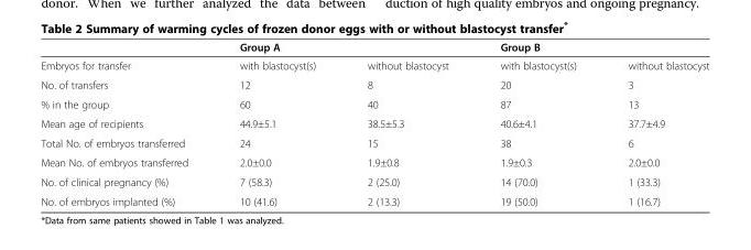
<table><thead><tr><td rowspan="2">Embryos for transfer</td><td colspan="2">Group A</td><td colspan="2">Group B</td></tr><tr><td>with blastocyst(s)</td><td>without blastocyst</td><td>with blastocyst(s)</td><td>without blastocyst</td></tr></thead><tbody><tr><td>No. of transfers</td><td>12</td><td>8</td><td>20</td><td>3</td></tr><tr><td>% in the group</td><td>60</td><td>40</td><td>87</td><td>13</td></tr><tr><td>Mean age of recipients</td><td>44.9±5.1</td><td>38.5±5.3</td><td>40.6±4.1</td><td>37.7±4.9</td></tr><tr><td>Total No. of embryos transferred</td><td>24</td><td>15</td><td>38</td><td>6</td></tr><tr><td>Mean No. of embryos transferred</td><td>2.0±0.0</td><td>1.9±0.8</td><td>1.9±0.3</td><td>2.0±0.0</td></tr><tr><td>No. of clinical pregnancy (%)</td><td>7 (58.3)</td><td>2 (25.0)</td><td>14 (70.0)</td><td>1 (33.3)</td></tr><tr><td>No. of embryos implanted (%)</td><td>10 (41.6)</td><td>2 (13.3)</td><td>19 (50.0)</td><td>1 (16.7)</td></tr></tbody></table>